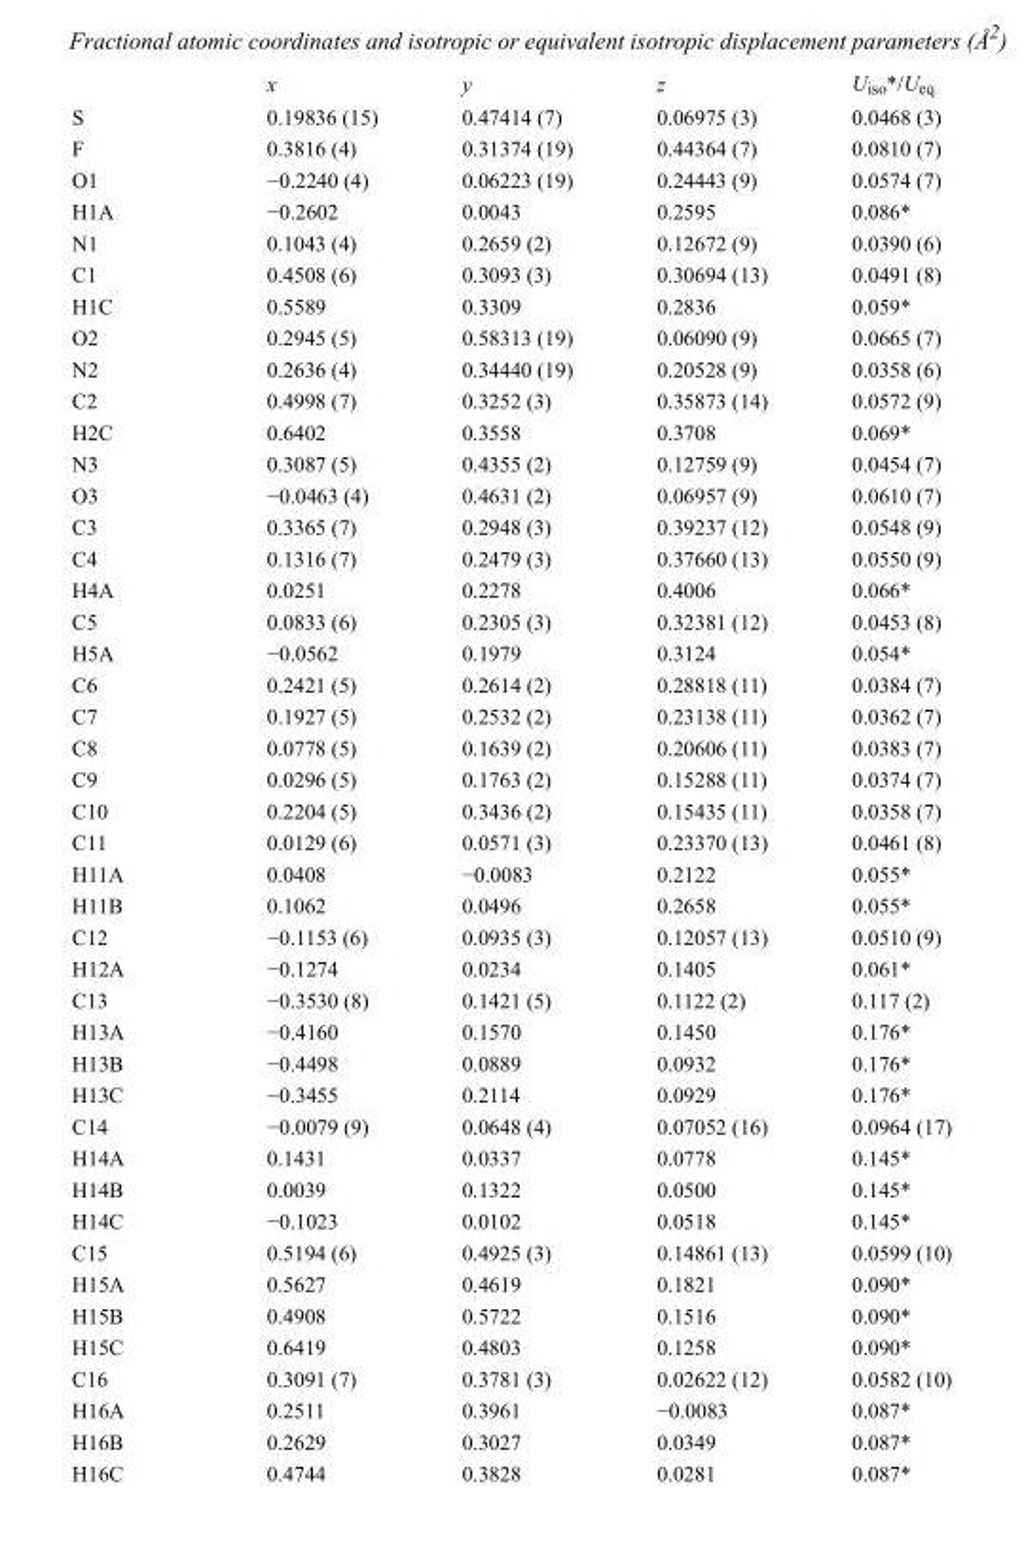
<table><thead><tr><td></td><td>x</td><td>y</td><td>z</td><td>U<sub>iso</sub>*/U<sub>eq</sub></td></tr></thead><tbody><tr><td>S</td><td>0.19836 (15)</td><td>0.47414 (7)</td><td>0.06975 (3)</td><td>0.0468 (3)</td></tr><tr><td>F</td><td>0.3816 (4)</td><td>0.31374 (19)</td><td>0.44364 (7)</td><td>0.0810 (7)</td></tr><tr><td>O1</td><td>−0.2240 (4)</td><td>0.06223 (19)</td><td>0.24443 (9)</td><td>0.0574 (7)</td></tr><tr><td>H1A</td><td>−0.2602</td><td>0.0043</td><td>0.2595</td><td>0.086*</td></tr><tr><td>N1</td><td>0.1043 (4)</td><td>0.2659 (2)</td><td>0.12672 (9)</td><td>0.0390 (6)</td></tr><tr><td>C1</td><td>0.4508 (6)</td><td>0.3093 (3)</td><td>0.30694 (13)</td><td>0.0491 (8)</td></tr><tr><td>H1C</td><td>0.5589</td><td>0.3309</td><td>0.2836</td><td>0.059*</td></tr><tr><td>O2</td><td>0.2945 (5)</td><td>0.58313 (19)</td><td>0.06090 (9)</td><td>0.0665 (7)</td></tr><tr><td>N2</td><td>0.2636 (4)</td><td>0.34440 (19)</td><td>0.20528 (9)</td><td>0.0358 (6)</td></tr><tr><td>C2</td><td>0.4998 (7)</td><td>0.3252 (3)</td><td>0.35873 (14)</td><td>0.0572 (9)</td></tr><tr><td>H2C</td><td>0.6402</td><td>0.3558</td><td>0.3708</td><td>0.069*</td></tr><tr><td>N3</td><td>0.3087 (5)</td><td>0.4355 (2)</td><td>0.12759 (9)</td><td>0.0454 (7)</td></tr><tr><td>O3</td><td>−0.0463 (4)</td><td>0.4631 (2)</td><td>0.06957 (9)</td><td>0.0610 (7)</td></tr><tr><td>C3</td><td>0.3365 (7)</td><td>0.2948 (3)</td><td>0.39237 (12)</td><td>0.0548 (9)</td></tr><tr><td>C4</td><td>0.1316 (7)</td><td>0.2479 (3)</td><td>0.37660 (13)</td><td>0.0550 (9)</td></tr><tr><td>H4A</td><td>0.0251</td><td>0.2278</td><td>0.4006</td><td>0.066*</td></tr><tr><td>C5</td><td>0.0833 (6)</td><td>0.2305 (3)</td><td>0.32381 (12)</td><td>0.0453 (8)</td></tr><tr><td>H5A</td><td>−0.0562</td><td>0.1979</td><td>0.3124</td><td>0.054*</td></tr><tr><td>C6</td><td>0.2421 (5)</td><td>0.2614 (2)</td><td>0.28818 (11)</td><td>0.0384 (7)</td></tr><tr><td>C7</td><td>0.1927 (5)</td><td>0.2532 (2)</td><td>0.23138 (11)</td><td>0.0362 (7)</td></tr><tr><td>C8</td><td>0.0778 (5)</td><td>0.1639 (2)</td><td>0.20606 (11)</td><td>0.0383 (7)</td></tr><tr><td>C9</td><td>0.0296 (5)</td><td>0.1763 (2)</td><td>0.15288 (11)</td><td>0.0374 (7)</td></tr><tr><td>C10</td><td>0.2204 (5)</td><td>0.3436 (2)</td><td>0.15435 (11)</td><td>0.0358 (7)</td></tr><tr><td>C11</td><td>0.0129 (6)</td><td>0.0571 (3)</td><td>0.23370 (13)</td><td>0.0461 (8)</td></tr><tr><td>H11A</td><td>0.0408</td><td>−0.0083</td><td>0.2122</td><td>0.055*</td></tr><tr><td>H11B</td><td>0.1062</td><td>0.0496</td><td>0.2658</td><td>0.055*</td></tr><tr><td>C12</td><td>−0.1153 (6)</td><td>0.0935 (3)</td><td>0.12057 (13)</td><td>0.0510 (9)</td></tr><tr><td>H12A</td><td>−0.1274</td><td>0.0234</td><td>0.1405</td><td>0.061*</td></tr><tr><td>C13</td><td>−0.3530 (8)</td><td>0.1421 (5)</td><td>0.1122 (2)</td><td>0.117 (2)</td></tr><tr><td>H13A</td><td>−0.4160</td><td>0.1570</td><td>0.1450</td><td>0.176*</td></tr><tr><td>H13B</td><td>−0.4498</td><td>0.0889</td><td>0.0932</td><td>0.176*</td></tr><tr><td>H13C</td><td>−0.3455</td><td>0.2114</td><td>0.0929</td><td>0.176*</td></tr><tr><td>C14</td><td>−0.0079 (9)</td><td>0.0648 (4)</td><td>0.07052 (16)</td><td>0.0964 (17)</td></tr><tr><td>H14A</td><td>0.1431</td><td>0.0337</td><td>0.0778</td><td>0.145*</td></tr><tr><td>H14B</td><td>0.0039</td><td>0.1322</td><td>0.0500</td><td>0.145*</td></tr><tr><td>H14C</td><td>−0.1023</td><td>0.0102</td><td>0.0518</td><td>0.145*</td></tr><tr><td>C15</td><td>0.5194 (6)</td><td>0.4925 (3)</td><td>0.14861 (13)</td><td>0.0599 (10)</td></tr><tr><td>H15A</td><td>0.5627</td><td>0.4619</td><td>0.1821</td><td>0.090*</td></tr><tr><td>H15B</td><td>0.4908</td><td>0.5722</td><td>0.1516</td><td>0.090*</td></tr><tr><td>H15C</td><td>0.6419</td><td>0.4803</td><td>0.1258</td><td>0.090*</td></tr><tr><td>C16</td><td>0.3091 (7)</td><td>0.3781 (3)</td><td>0.02622 (12)</td><td>0.0582 (10)</td></tr><tr><td>H16A</td><td>0.2511</td><td>0.3961</td><td>−0.0083</td><td>0.087*</td></tr><tr><td>H16B</td><td>0.2629</td><td>0.3027</td><td>0.0349</td><td>0.087*</td></tr><tr><td>H16C</td><td>0.4744</td><td>0.3828</td><td>0.0281</td><td>0.087*</td></tr></tbody></table>